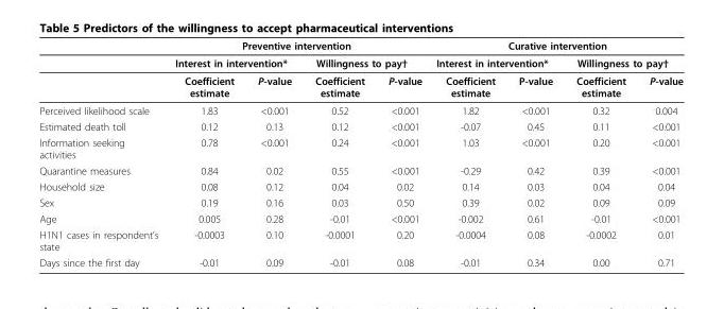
<table><thead><tr><td rowspan="3"></td><td colspan="4">Preventive intervention</td><td colspan="4">Curative intervention</td></tr><tr><td colspan="2">Interest in intervention*</td><td colspan="2">Willingness to pay†</td><td colspan="2">Interest in intervention*</td><td colspan="2">Willingness to pay†</td></tr><tr><td>Coefficient estimate</td><td>P-value</td><td>Coefficient estimate</td><td>P-value</td><td>Coefficient estimate</td><td>P-value</td><td>Coefficient estimate</td><td>P-value</td></tr></thead><tbody><tr><td>Perceived likelihood scale</td><td>1.83</td><td>&lt;0.001</td><td>0.52</td><td>&lt;0.001</td><td>1.82</td><td>&lt;0.001</td><td>0.32</td><td>0.004</td></tr><tr><td>Estimated death toll</td><td>0.12</td><td>0.13</td><td>0.12</td><td>&lt;0.001</td><td>-0.07</td><td>0.45</td><td>0.11</td><td>&lt;0.001</td></tr><tr><td>Information seeking activities</td><td>0.78</td><td>&lt;0.001</td><td>0.24</td><td>&lt;0.001</td><td>1.03</td><td>&lt;0.001</td><td>0.20</td><td>&lt;0.001</td></tr><tr><td>Quarantine measures</td><td>0.84</td><td>0.02</td><td>0.55</td><td>&lt;0.001</td><td>-0.29</td><td>0.42</td><td>0.39</td><td>&lt;0.001</td></tr><tr><td>Household size</td><td>0.08</td><td>0.12</td><td>0.04</td><td>0.02</td><td>0.14</td><td>0.03</td><td>0.04</td><td>0.04</td></tr><tr><td>Sex</td><td>0.19</td><td>0.16</td><td>0.03</td><td>0.50</td><td>0.39</td><td>0.02</td><td>0.09</td><td>0.09</td></tr><tr><td>Age</td><td>0.005</td><td>0.28</td><td>-0.01</td><td>&lt;0.001</td><td>-0.002</td><td>0.61</td><td>-0.01</td><td>&lt;0.001</td></tr><tr><td>H1N1 cases in respondent’s state</td><td>-0.0003</td><td>0.10</td><td>-0.0001</td><td>0.20</td><td>-0.0004</td><td>0.08</td><td>-0.0002</td><td>0.01</td></tr><tr><td>Days since the first day</td><td>-0.01</td><td>0.09</td><td>-0.01</td><td>0.08</td><td>-0.01</td><td>0.34</td><td>0.00</td><td>0.71</td></tr></tbody></table>